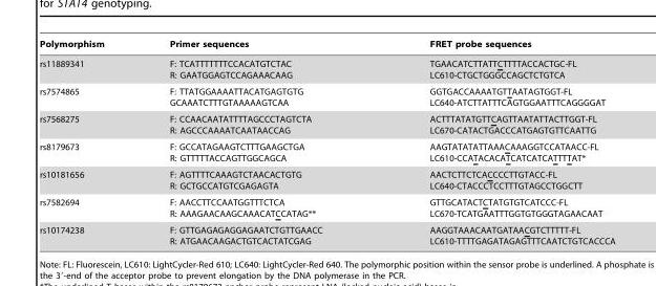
<table><thead><tr><td>Polymorphism</td><td>Primer sequences</td><td>FRET probe sequences</td></tr></thead><tbody><tr><td>rs11889341</td><td>F: TCATTTTTTTCCACATGTCTAC R: GAATGGAGTCCAGAAACAAG</td><td>TGAACATCTTATTCTTTTACCACTGC-FL LC610-CTGCTGGGCCAGCTCTGTCA</td></tr><tr><td>rs7574865</td><td>F: TTATGGAAAATTACATGAGTGTG GCAAATCTTTGTAAAAAGTCAA</td><td>GGTGACCAAAATGTTAATAGTGGT-FL LC640-ATCTTATTTCAGTGGAATTTCAGGGGAT</td></tr><tr><td>rs7568275</td><td>F: CCAACAATATTTTAGCCCTAGTCTA R: AGCCCAAAATCAATAACCAG</td><td>ACTTTATATGTTCAGTTAATATTACTTGGT-FL LC670-CATACTGACCCATGAGTGTTCAATTG</td></tr><tr><td>rs8179673</td><td>F: GCCATAGAAGTCTTTGAAGCTGA R: GTTTTTACCAGTTGGCAGCA</td><td>AAGTATATATTAAACAAAGGTCCATAACC-FL LC610-CCATACACATCATCATCATTTTAT*</td></tr><tr><td>rs10181656</td><td>F: AGTTTTCAAAGTCTAACACTGTG R: GCTGCCATGTCGAGAGTA</td><td>AACTCTTCTCACCCCTTGTACC-FL LC640-CTACCCTCCTTTGTAGCCTGGCTT</td></tr><tr><td>rs7582694</td><td>F: AACCTTCCAATGGTTTCTCA R: AAAGAACAAGCAAACATCCATAG**</td><td>GTTGCATACTCTATGTGTCATCCC-FL LC670-TCATGAATTTGGTGTGGGTAGAACAAT</td></tr><tr><td>rs10174238</td><td>F: GTTGAGAGAGGAGAATCTGTTGAACC R: ATGAACAAGACTGTCACTATCGAG</td><td>AAGGTAAACAATGATAACGTCTTTTT-FL LC610-TTTTGAGATAGAGTTTCAATCTGTCACCCA</td></tr></tbody></table>